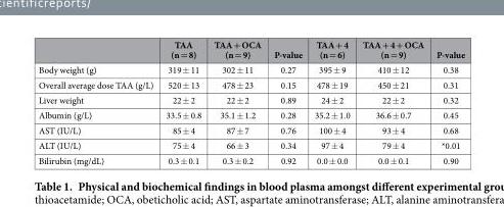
<table><thead><tr><td></td><td>TAA (n = 8)</td><td>TAA + OCA (n = 9)</td><td>P-value</td><td>TAA + 4 (n = 6)</td><td>TAA + 4 + OCA (n = 9)</td><td>P-value</td></tr></thead><tbody><tr><td>Body weight (g)</td><td>319 ± 11</td><td>302 ± 11</td><td>0.27</td><td>395 ± 9</td><td>410 ± 12</td><td>0.38</td></tr><tr><td>Overall average dose TAA (g/L)</td><td>520 ± 13</td><td>478 ± 23</td><td>0.15</td><td>478 ± 19</td><td>450 ± 21</td><td>0.31</td></tr><tr><td>Liver weight</td><td>22 ± 2</td><td>22 ± 2</td><td>0.89</td><td>24 ± 2</td><td>22 ± 2</td><td>0.32</td></tr><tr><td>Albumin (g/L)</td><td>33.5 ± 0.8</td><td>35.1 ± 1.2</td><td>0.28</td><td>35.2 ± 1.0</td><td>36.6 ± 0.7</td><td>0.45</td></tr><tr><td>AST (IU/L)</td><td>85 ± 4</td><td>87 ± 7</td><td>0.76</td><td>100 ± 4</td><td>93 ± 4</td><td>0.68</td></tr><tr><td>ALT (IU/L)</td><td>75 ± 4</td><td>66 ± 3</td><td>0.34</td><td>97 ± 4</td><td>79 ± 4</td><td>*0.01</td></tr><tr><td>Bilirubin (mg/dL)</td><td>0.3 ± 0.1</td><td>0.3 ± 0.2</td><td>0.92</td><td>0.0 ± 0.0</td><td>0.0 ± 0.1</td><td>0.90</td></tr></tbody></table>